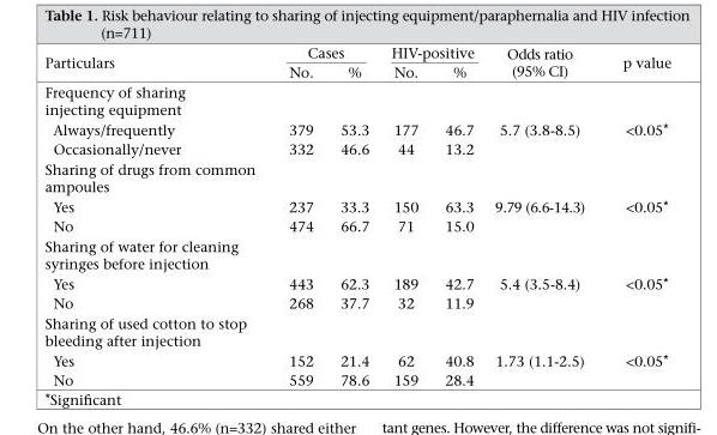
<table><thead><tr><td rowspan="2">Particulars</td><td colspan="2">Cases</td><td colspan="2">HIV-positive</td><td rowspan="2">Odds ratio (95% CI)</td><td rowspan="2">p value</td></tr><tr><td>No.</td><td>%</td><td>No.</td><td>%</td></tr></thead><tbody><tr><td colspan="7">Frequency of sharing injecting equipment</td></tr><tr><td>Always/frequently</td><td>379</td><td>53.3</td><td>177</td><td>46.7</td><td>5.7 (3.8-8.5)</td><td>&lt;0.05*</td></tr><tr><td>Occasionally/never</td><td>332</td><td>46.6</td><td>44</td><td>13.2</td><td></td><td></td></tr><tr><td colspan="7">Sharing of drugs from common ampoules</td></tr><tr><td>Yes</td><td>237</td><td>33.3</td><td>150</td><td>63.3</td><td>9.79 (6.6-14.3)</td><td>&lt;0.05*</td></tr><tr><td>No</td><td>474</td><td>66.7</td><td>71</td><td>15.0</td><td></td><td></td></tr><tr><td colspan="7">Sharing of water for cleaning syringes before injection</td></tr><tr><td>Yes</td><td>443</td><td>62.3</td><td>189</td><td>42.7</td><td>5.4 (3.5-8.4)</td><td>&lt;0.05*</td></tr><tr><td>No</td><td>268</td><td>37.7</td><td>32</td><td>11.9</td><td></td><td></td></tr><tr><td colspan="7">Sharing of used cotton to stop bleeding after injection</td></tr><tr><td>Yes</td><td>152</td><td>21.4</td><td>62</td><td>40.8</td><td>1.73 (1.1-2.5)</td><td>&lt;0.05*</td></tr><tr><td>No</td><td>559</td><td>78.6</td><td>159</td><td>28.4</td><td></td><td></td></tr></tbody></table>